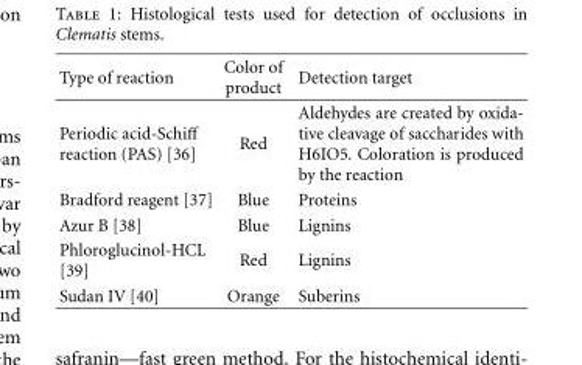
<table><thead><tr><td>Type of reaction</td><td>Color of product</td><td>Detection target</td></tr></thead><tbody><tr><td>Periodic acid-Schiff reaction (PAS) [36]</td><td>Red</td><td>Aldehydes are created by oxida- tive cleavage of saccharides with H6IO5. Coloration is produced by the reaction</td></tr><tr><td>Bradford reagent [37]</td><td>Blue</td><td>Proteins</td></tr><tr><td>Azur B [38]</td><td>Blue</td><td>Lignins</td></tr><tr><td>Phloroglucinol-HCL [39]</td><td>Red</td><td>Lignins</td></tr><tr><td>Sudan IV [40]</td><td>Orange</td><td>Suberins</td></tr></tbody></table>